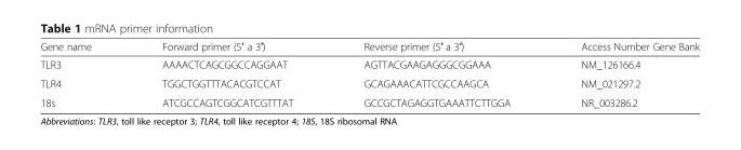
<table><thead><tr><td>Gene name</td><td>Forward primer (5ʹ a 3′)</td><td>Reverse primer (5′ a 3′)</td><td>Access Number Gene Bank</td></tr></thead><tbody><tr><td>TLR3</td><td>AAAACTCAGCGGCCAGGAAT</td><td>AGTTACGAAGAGGGCGGAAA</td><td>NM_126166.4</td></tr><tr><td>TLR4</td><td>TGGCTGGTTTACACGTCCAT</td><td>GCAGAAACATTCGCCAAGCA</td><td>NM_021297.2</td></tr><tr><td>18s</td><td>ATCGCCAGTCGGCATCGTTTAT</td><td>GCCGCTAGAGGTGAAATTCTTGGA</td><td>NR_003286.2</td></tr></tbody></table>